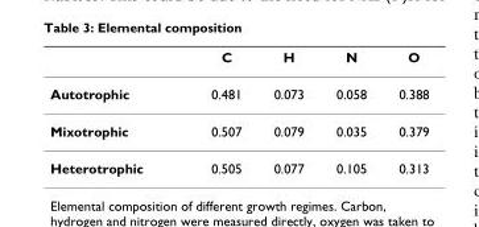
<table><thead><tr><td></td><td>C</td><td>H</td><td>N</td><td>O</td></tr></thead><tbody><tr><td>Autotrophic</td><td>0.481</td><td>0.073</td><td>0.058</td><td>0.388</td></tr><tr><td>Mixotrophic</td><td>0.507</td><td>0.079</td><td>0.035</td><td>0.379</td></tr><tr><td>Heterotrophic</td><td>0.505</td><td>0.077</td><td>0.105</td><td>0.313</td></tr></tbody></table>